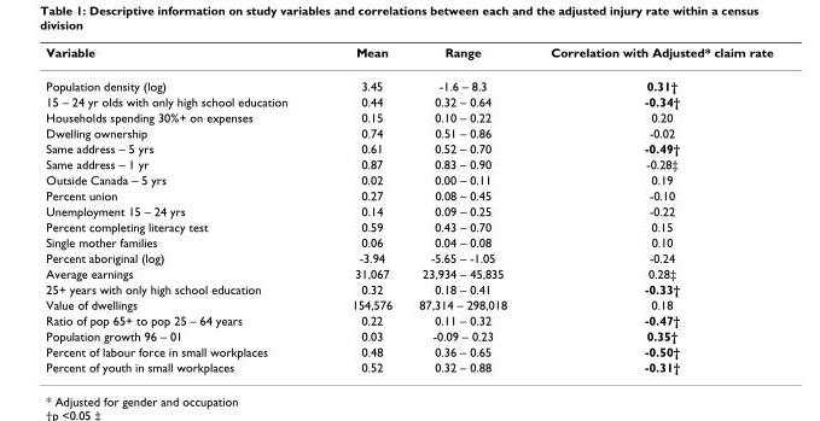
<table><thead><tr><td>Variable</td><td>Mean</td><td>Range</td><td>Correlation with Adjusted* claim rate</td></tr></thead><tbody><tr><td>Population density (log)</td><td>3.45</td><td>-1.6 – 8.3</td><td>0.31†</td></tr><tr><td>15 – 24 yr olds with only high school education</td><td>0.44</td><td>0.32 – 0.64</td><td>-0.34†</td></tr><tr><td>Households spending 30%+ on expenses</td><td>0.15</td><td>0.10 – 0.22</td><td>0.20</td></tr><tr><td>Dwelling ownership</td><td>0.74</td><td>0.51 – 0.86</td><td>-0.02</td></tr><tr><td>Same address – 5 yrs</td><td>0.61</td><td>0.52 – 0.70</td><td>-0.49†</td></tr><tr><td>Same address – 1 yr</td><td>0.87</td><td>0.83 – 0.90</td><td>-0.28‡</td></tr><tr><td>Outside Canada – 5 yrs</td><td>0.02</td><td>0.00 – 0.11</td><td>0.19</td></tr><tr><td>Percent union</td><td>0.27</td><td>0.08 – 0.45</td><td>-0.10</td></tr><tr><td>Unemployment 15 – 24 yrs</td><td>0.14</td><td>0.09 – 0.25</td><td>-0.22</td></tr><tr><td>Percent completing literacy test</td><td>0.59</td><td>0.43 – 0.70</td><td>0.15</td></tr><tr><td>Single mother families</td><td>0.06</td><td>0.04 – 0.08</td><td>0.10</td></tr><tr><td>Percent aboriginal (log)</td><td>-3.94</td><td>-5.65 – -1.05</td><td>-0.24</td></tr><tr><td>Average earnings</td><td>31,067</td><td>23,934 – 45,835</td><td>0.28‡</td></tr><tr><td>25+ years with only high school education</td><td>0.32</td><td>0.18 – 0.41</td><td>-0.33†</td></tr><tr><td>Value of dwellings</td><td>154,576</td><td>87,314 – 298,018</td><td>0.18</td></tr><tr><td>Ratio of pop 65+ to pop 25 – 64 years</td><td>0.22</td><td>0.11 – 0.32</td><td>-0.47†</td></tr><tr><td>Population growth 96 – 01</td><td>0.03</td><td>-0.09 – 0.23</td><td>0.35†</td></tr><tr><td>Percent of labour force in small workplaces</td><td>0.48</td><td>0.36 – 0.65</td><td>-0.50†</td></tr><tr><td>Percent of youth in small workplaces</td><td>0.52</td><td>0.32 – 0.88</td><td>-0.31†</td></tr></tbody></table>